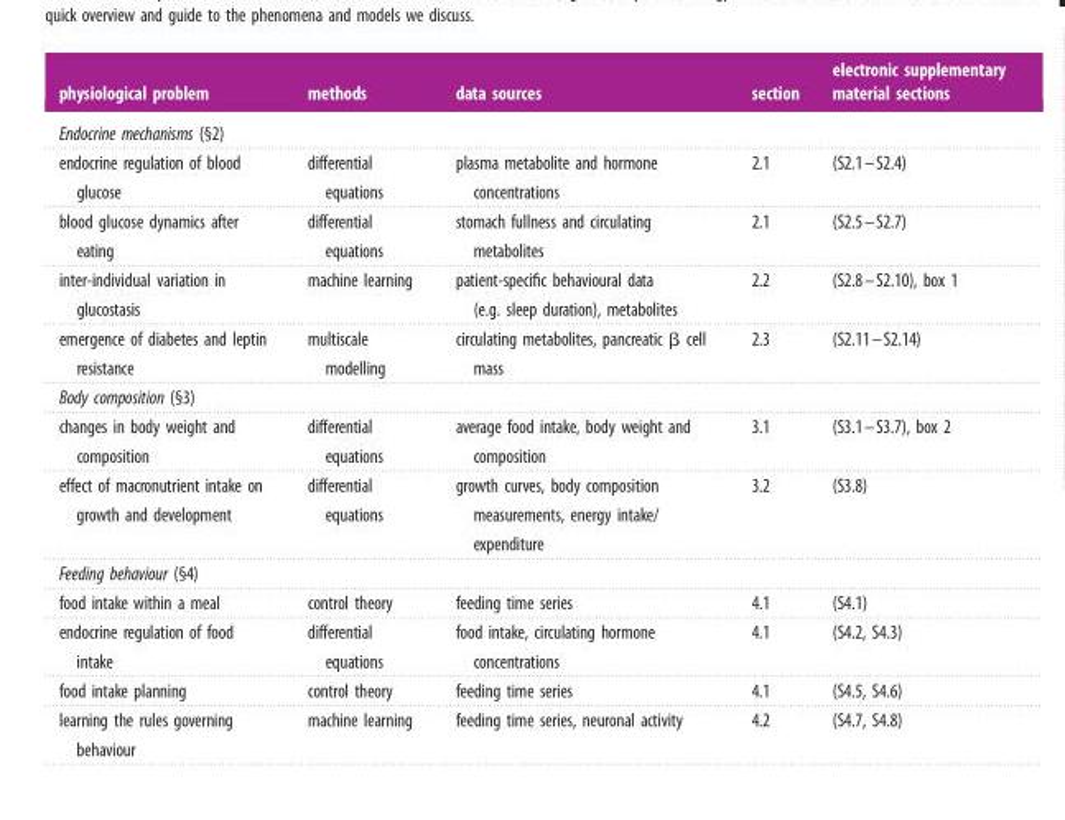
<table><thead><tr><td>physiological problem</td><td>methods</td><td>data sources</td><td>section</td><td>electronic supplementary material sections</td></tr></thead><tbody><tr><td colspan="5">Endocrine mechanisms (§2)</td></tr><tr><td>endocrine regulation of blood glucose</td><td>differential equations</td><td>plasma metabolite and hormone concentrations</td><td>2.1</td><td>(S2.1–S2.4)</td></tr><tr><td>blood glucose dynamics after eating</td><td>differential equations</td><td>stomach fullness and circulating metabolites</td><td>2.1</td><td>(S2.5–S2.7)</td></tr><tr><td>inter-individual variation in glucostasis</td><td>machine learning</td><td>patient-specific behavioural data (e.g. sleep duration), metabolites</td><td>2.2</td><td>(S2.8–S2.10), box 1</td></tr><tr><td>emergence of diabetes and leptin resistance</td><td>multiscale modelling</td><td>circulating metabolites, pancreatic β cell mass</td><td>2.3</td><td>(S2.11–S2.14)</td></tr><tr><td colspan="5">Body composition (§3)</td></tr><tr><td>changes in body weight and composition</td><td>differential equations</td><td>average food intake, body weight and composition</td><td>3.1</td><td>(S3.1–S3.7), box 2</td></tr><tr><td>effect of macronutrient intake on growth and development</td><td>differential equations</td><td>growth curves, body composition measurements, energy intake/ expenditure</td><td>3.2</td><td>(S3.8)</td></tr><tr><td colspan="5">Feeding behaviour (§4)</td></tr><tr><td>food intake within a meal</td><td>control theory</td><td>feeding time series</td><td>4.1</td><td>(S4.1)</td></tr><tr><td>endocrine regulation of food intake</td><td>differential equations</td><td>food intake, circulating hormone concentrations</td><td>4.1</td><td>(S4.2, S4.3)</td></tr><tr><td>food intake planning</td><td>control theory</td><td>feeding time series</td><td>4.1</td><td>(S4.5, S4.6)</td></tr><tr><td>learning the rules governing behaviour</td><td>machine learning</td><td>feeding time series, neuronal activity</td><td>4.2</td><td>(S4.7, S4.8)</td></tr></tbody></table>